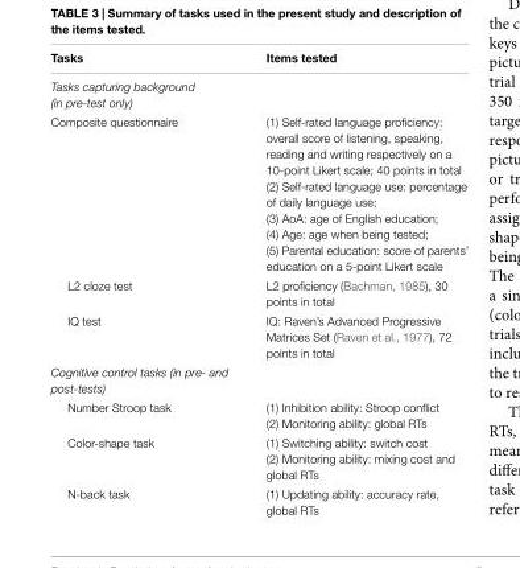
<table><thead><tr><td>Tasks</td><td>Items tested</td></tr></thead><tbody><tr><td colspan="2">Tasks capturing background (in pre-test only)</td></tr><tr><td>Composite questionnaire</td><td>(1) Self-rated language proficiency: overall score of listening, speaking, reading and writing respectively on a 10-point Likert scale; 40 points in total (2) Self-rated language use: percentage of daily language use; (3) AoA: age of English education; (4) Age: age when being tested; (5) Parental education: score of parents’ education on a 5-point Likert scale</td></tr><tr><td>L2 cloze test</td><td>L2 proficiency (Bachman, 1985), 30 points in total</td></tr><tr><td>IQ test</td><td>IQ: Raven’s Advanced Progressive Matrices Set (Raven et al., 1977), 72 points in total</td></tr><tr><td colspan="2">Cognitive control tasks (in pre- and post-tests)</td></tr><tr><td>Number Stroop task</td><td>(1) Inhibition ability: Stroop conflict (2) Monitoring ability: global RTs</td></tr><tr><td>Color-shape task</td><td>(1) Switching ability: switch cost (2) Monitoring ability: mixing cost and global RTs</td></tr><tr><td>N-back task</td><td>(1) Updating ability: accuracy rate, global RTs</td></tr></tbody></table>